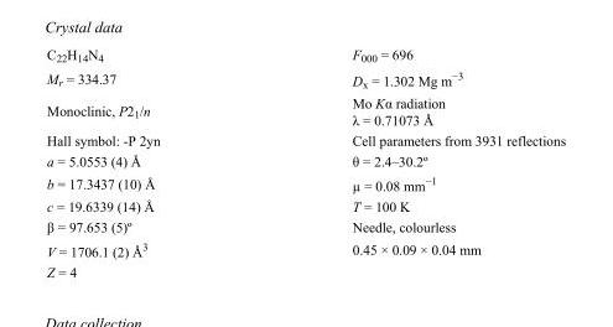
<table><tbody><tr><td>C<sub>22</sub>H<sub>14</sub>N<sub>4</sub></td><td>F000 = 696</td></tr><tr><td>M<sub>r</sub> = 334.37</td><td>D<sub>x</sub> = 1.302 Mg m<sup>−3</sup></td></tr><tr><td>Monoclinic, P2<sub>1</sub>/n</td><td>Mo Kα radiation λ = 0.71073 Å</td></tr><tr><td>Hall symbol: -P 2yn</td><td>Cell parameters from 3931 reflections</td></tr><tr><td>a = 5.0553 (4) Å</td><td>θ = 2.4–30.2º</td></tr><tr><td>b = 17.3437 (10) Å</td><td>µ = 0.08 mm<sup>−1</sup></td></tr><tr><td>c = 19.6339 (14) Å</td><td>T = 100 K</td></tr><tr><td>β = 97.653 (5)º</td><td>Needle, colourless</td></tr><tr><td>V = 1706.1 (2) Å<sup>3</sup></td><td>0.45 × 0.09 × 0.04 mm</td></tr><tr><td>Z = 4</td><td></td></tr></tbody></table>